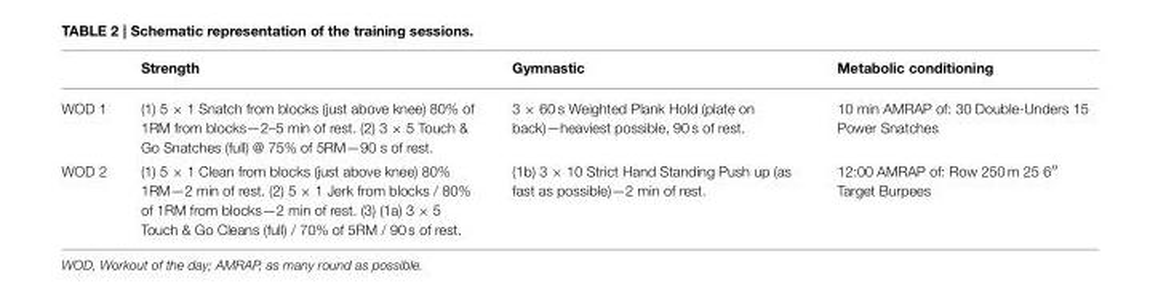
<table><thead><tr><td></td><td>Strength</td><td>Gymnastic</td><td>Metabolic conditioning</td></tr></thead><tbody><tr><td>WOD 1</td><td>(1) 5 × 1 Snatch from blocks (just above knee) 80% of 1RM from blocks—2–5 min of rest. (2) 3 × 5 Touch &amp; Go Snatches (full) @ 75% of 5RM—90 s of rest.</td><td>3 × 60 s Weighted Plank Hold (plate on back)—heaviest possible, 90 s of rest.</td><td>10 min AMRAP of: 30 Double-Unders 15 Power Snatches</td></tr><tr><td>WOD 2</td><td>(1) 5 × 1 Clean from blocks (just above knee) 80% 1RM—2 min of rest. (2) 5 × 1 Jerk from blocks / 80% of 1RM from blocks—2 min of rest. (3) (1a) 3 × 5 Touch &amp; Go Cleans (full) / 70% of 5RM / 90 s of rest.</td><td>(1b) 3 × 10 Strict Hand Standing Push up (as fast as possible)—2 min of rest.</td><td>12:00 AMRAP of: Row 250 m 25 6′′ Target Burpees</td></tr></tbody></table>